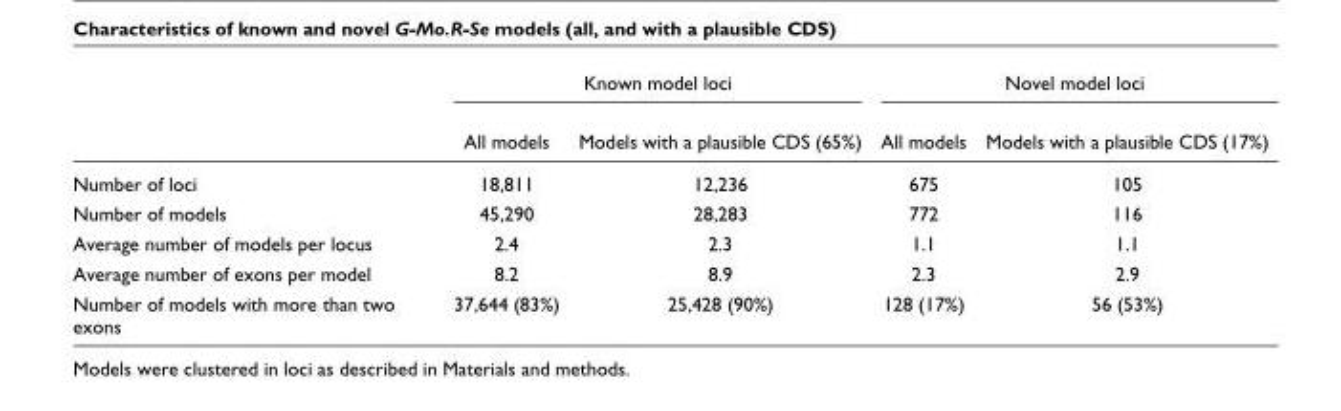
<table><thead><tr><td rowspan="2"></td><td colspan="2">Known model loci</td><td colspan="2">Novel model loci</td></tr><tr><td>All models</td><td>Models with a plausible CDS (65%)</td><td>All models</td><td>Models with a plausible CDS (17%)</td></tr></thead><tbody><tr><td>Number of loci</td><td>18,811</td><td>12,236</td><td>675</td><td>105</td></tr><tr><td>Number of models</td><td>45,290</td><td>28,283</td><td>772</td><td>116</td></tr><tr><td>Average number of models per locus</td><td>2.4</td><td>2.3</td><td>1.1</td><td>1.1</td></tr><tr><td>Average number of exons per model</td><td>8.2</td><td>8.9</td><td>2.3</td><td>2.9</td></tr><tr><td>Number of models with more than two exons</td><td>37,644 (83%)</td><td>25,428 (90%)</td><td>128 (17%)</td><td>56 (53%)</td></tr></tbody></table>